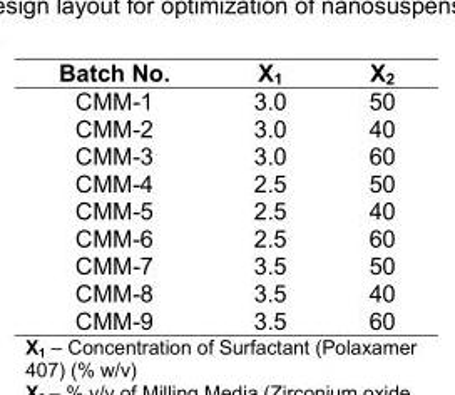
<table><thead><tr><td>Batch No.</td><td>X<sub>1</sub></td><td>X<sub>2</sub></td></tr></thead><tbody><tr><td>CMM-1</td><td>3.0</td><td>50</td></tr><tr><td>CMM-2</td><td>3.0</td><td>40</td></tr><tr><td>CMM-3</td><td>3.0</td><td>60</td></tr><tr><td>CMM-4</td><td>2.5</td><td>50</td></tr><tr><td>CMM-5</td><td>2.5</td><td>40</td></tr><tr><td>CMM-6</td><td>2.5</td><td>60</td></tr><tr><td>CMM-7</td><td>3.5</td><td>50</td></tr><tr><td>CMM-8</td><td>3.5</td><td>40</td></tr><tr><td>CMM-9</td><td>3.5</td><td>60</td></tr></tbody></table>